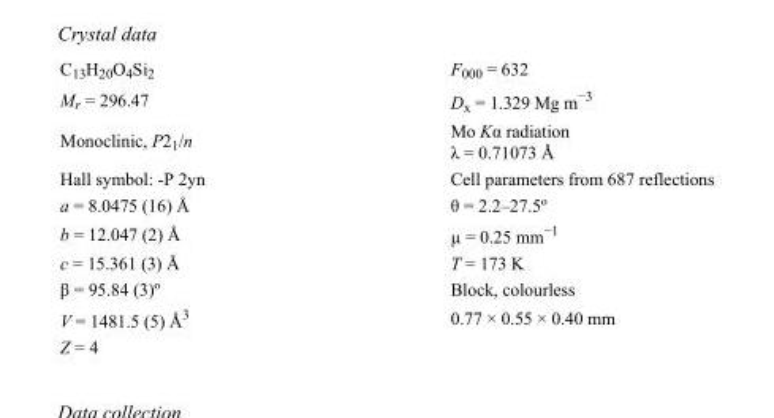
<table><tbody><tr><td>C<sub>13</sub>H<sub>20</sub>O<sub>4</sub>Si<sub>2</sub></td><td>F000 = 632</td></tr><tr><td>M<sub>r</sub> = 296.47</td><td>D<sub>x</sub> = 1.329 Mg m<sup>−3</sup></td></tr><tr><td>Monoclinic, P2<sub>1</sub>/n</td><td>Mo Kα radiation λ = 0.71073 Å</td></tr><tr><td>Hall symbol: -P 2yn</td><td>Cell parameters from 687 reflections</td></tr><tr><td>a = 8.0475 (16) Å</td><td>θ = 2.2–27.5º</td></tr><tr><td>b = 12.047 (2) Å</td><td>µ = 0.25 mm<sup>−1</sup></td></tr><tr><td>c = 15.361 (3) Å</td><td>T = 173 K</td></tr><tr><td>β = 95.84 (3)º</td><td>Block, colourless</td></tr><tr><td>V = 1481.5 (5) Å<sup>3</sup></td><td>0.77 × 0.55 × 0.40 mm</td></tr><tr><td>Z = 4</td><td></td></tr></tbody></table>